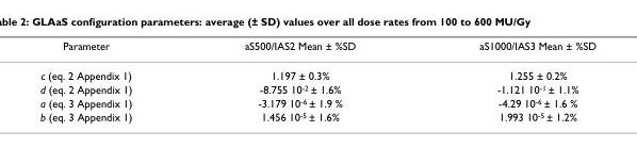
<table><thead><tr><td>Parameter</td><td>aS500/IAS2 Mean ± %SD</td><td>aS1000/IAS3 Mean ± %SD</td></tr></thead><tbody><tr><td>c (eq. 2 Appendix 1)</td><td>1.197 ± 0.3%</td><td>1.255 ± 0.2%</td></tr><tr><td>d (eq. 2 Appendix 1)</td><td>-8.755 10<sup>-2</sup> ± 1.6%</td><td>-1.121 10<sup>-1</sup> ± 1.1%</td></tr><tr><td>a (eq. 3 Appendix 1)</td><td>-3.179 10<sup>-6</sup> ± 1.9 %</td><td>-4.29 10<sup>-6</sup> ± 1.6 %</td></tr><tr><td>b (eq. 3 Appendix 1)</td><td>1.456 10<sup>-5</sup> ± 1.6%</td><td>1.993 10<sup>-5</sup> ± 1.2%</td></tr></tbody></table>